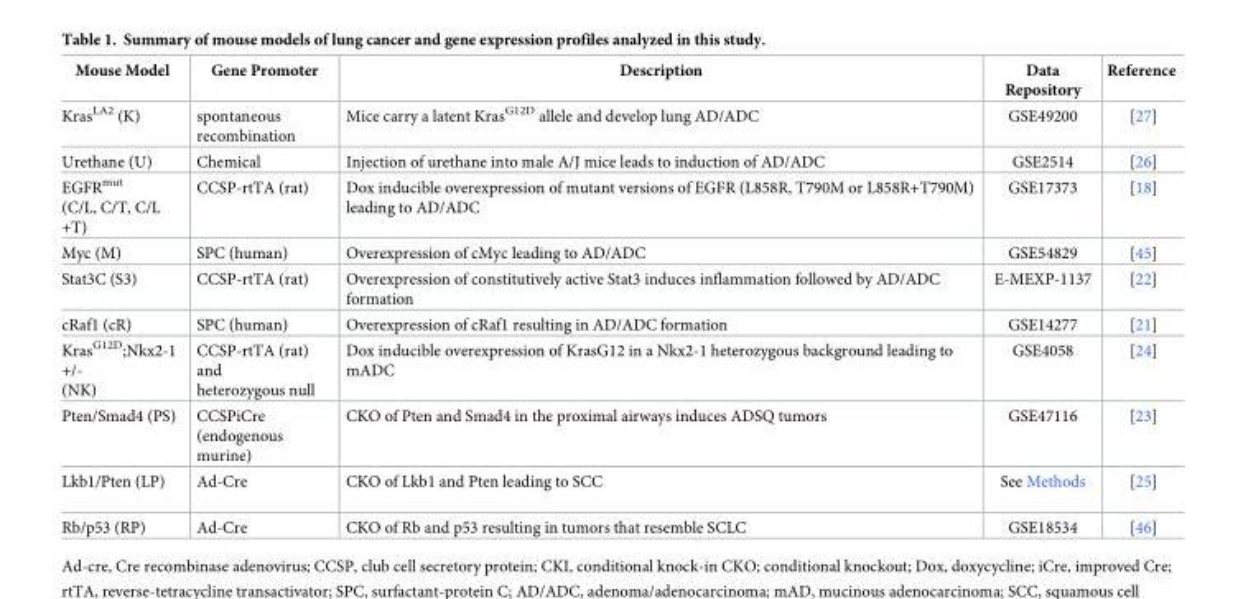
<table><thead><tr><td>Mouse Model</td><td>Gene Promoter</td><td>Description</td><td>Data Repository</td><td>Reference</td></tr></thead><tbody><tr><td>Kras<sup>LA2</sup> (K)</td><td>spontaneous recombination</td><td>Mice carry a latent Kras<sup>G12D</sup> allele and develop lung AD/ADC</td><td>GSE49200</td><td>[27]</td></tr><tr><td>Urethane (U)</td><td>Chemical</td><td>Injection of urethane into male A/J mice leads to induction of AD/ADC</td><td>GSE2514</td><td>[26]</td></tr><tr><td>EGFR<sup>mut</sup> (C/L, C/T, C/L +T)</td><td>CCSP-rtTA (rat)</td><td>Dox inducible overexpression of mutant versions of EGFR (L858R, T790M or L858R+T790M) leading to AD/ADC</td><td>GSE17373</td><td>[18]</td></tr><tr><td>Myc (M)</td><td>SPC (human)</td><td>Overexpression of cMyc leading to AD/ADC</td><td>GSE54829</td><td>[45]</td></tr><tr><td>Stat3C (S3)</td><td>CCSP-rtTA (rat)</td><td>Overexpression of constitutively active Stat3 induces inflammation followed by AD/ADC formation</td><td>E-MEXP-1137</td><td>[22]</td></tr><tr><td>cRaf1 (cR)</td><td>SPC (human)</td><td>Overexpression of cRaf1 resulting in AD/ADC formation</td><td>GSE14277</td><td>[21]</td></tr><tr><td>Kras<sup>G12D</sup>;Nkx2-1 +/- (NK)</td><td>CCSP-rtTA (rat) and heterozygous null</td><td>Dox inducible overexpression of KrasG12 in a Nkx2-1 heterozygous background leading to mADC</td><td>GSE4058</td><td>[24]</td></tr><tr><td>Pten/Smad4 (PS)</td><td>CCSPiCre (endogenous murine)</td><td>CKO of Pten and Smad4 in the proximal airways induces ADSQ tumors</td><td>GSE47116</td><td>[23]</td></tr><tr><td>Lkb1/Pten (LP)</td><td>Ad-Cre</td><td>CKO of Lkb1 and Pten leading to SCC</td><td>See Methods</td><td>[25]</td></tr><tr><td>Rb/p53 (RP)</td><td>Ad-Cre</td><td>CKO of Rb and p53 resulting in tumors that resemble SCLC</td><td>GSE18534</td><td>[46]</td></tr></tbody></table>